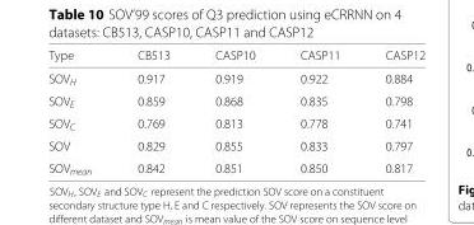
<table><thead><tr><td>Type</td><td>CB513</td><td>CASP10</td><td>CASP11</td><td>CASP12</td></tr></thead><tbody><tr><td>SOV<sub>H</sub></td><td>0.917</td><td>0.919</td><td>0.922</td><td>0.884</td></tr><tr><td>SOV<sub>E</sub></td><td>0.859</td><td>0.868</td><td>0.835</td><td>0.798</td></tr><tr><td>SOV<sub>C</sub></td><td>0.769</td><td>0.813</td><td>0.778</td><td>0.741</td></tr><tr><td>SOV</td><td>0.829</td><td>0.855</td><td>0.833</td><td>0.797</td></tr><tr><td>SOV<sub>mean</sub></td><td>0.842</td><td>0.851</td><td>0.850</td><td>0.817</td></tr></tbody></table>